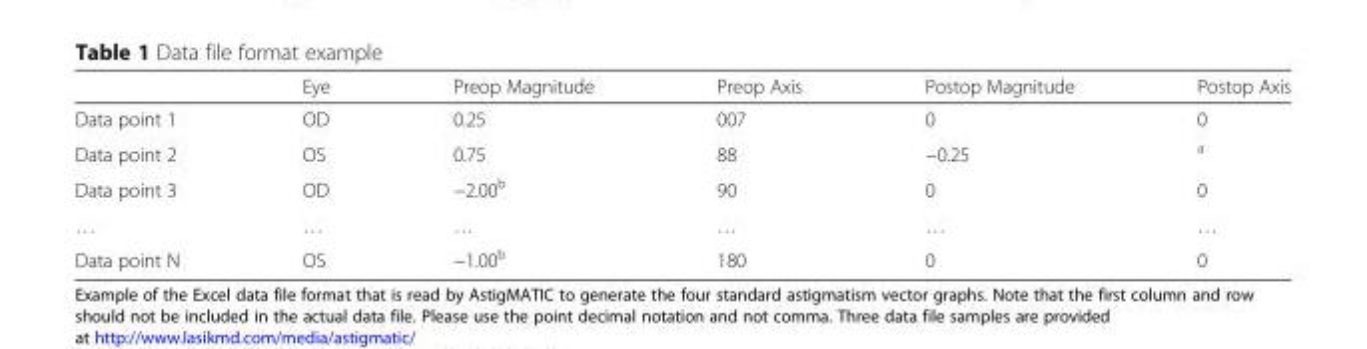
<table><thead><tr><td></td><td>Eye</td><td>Preop Magnitude</td><td>Preop Axis</td><td>Postop Magnitude</td><td>Postop Axis</td></tr></thead><tbody><tr><td>Data point 1</td><td>OD</td><td>0.25</td><td>007</td><td>0</td><td>0</td></tr><tr><td>Data point 2</td><td>OS</td><td>0.75</td><td>88</td><td>−0.25</td><td><sup>a</sup></td></tr><tr><td>Data point 3</td><td>OD</td><td>−2.00<sup>b</sup></td><td>90</td><td>0</td><td>0</td></tr><tr><td>…</td><td>…</td><td>…</td><td>…</td><td>…</td><td>…</td></tr><tr><td>Data point N</td><td>OS</td><td>−1.00<sup>b</sup></td><td>180</td><td>0</td><td>0</td></tr></tbody></table>